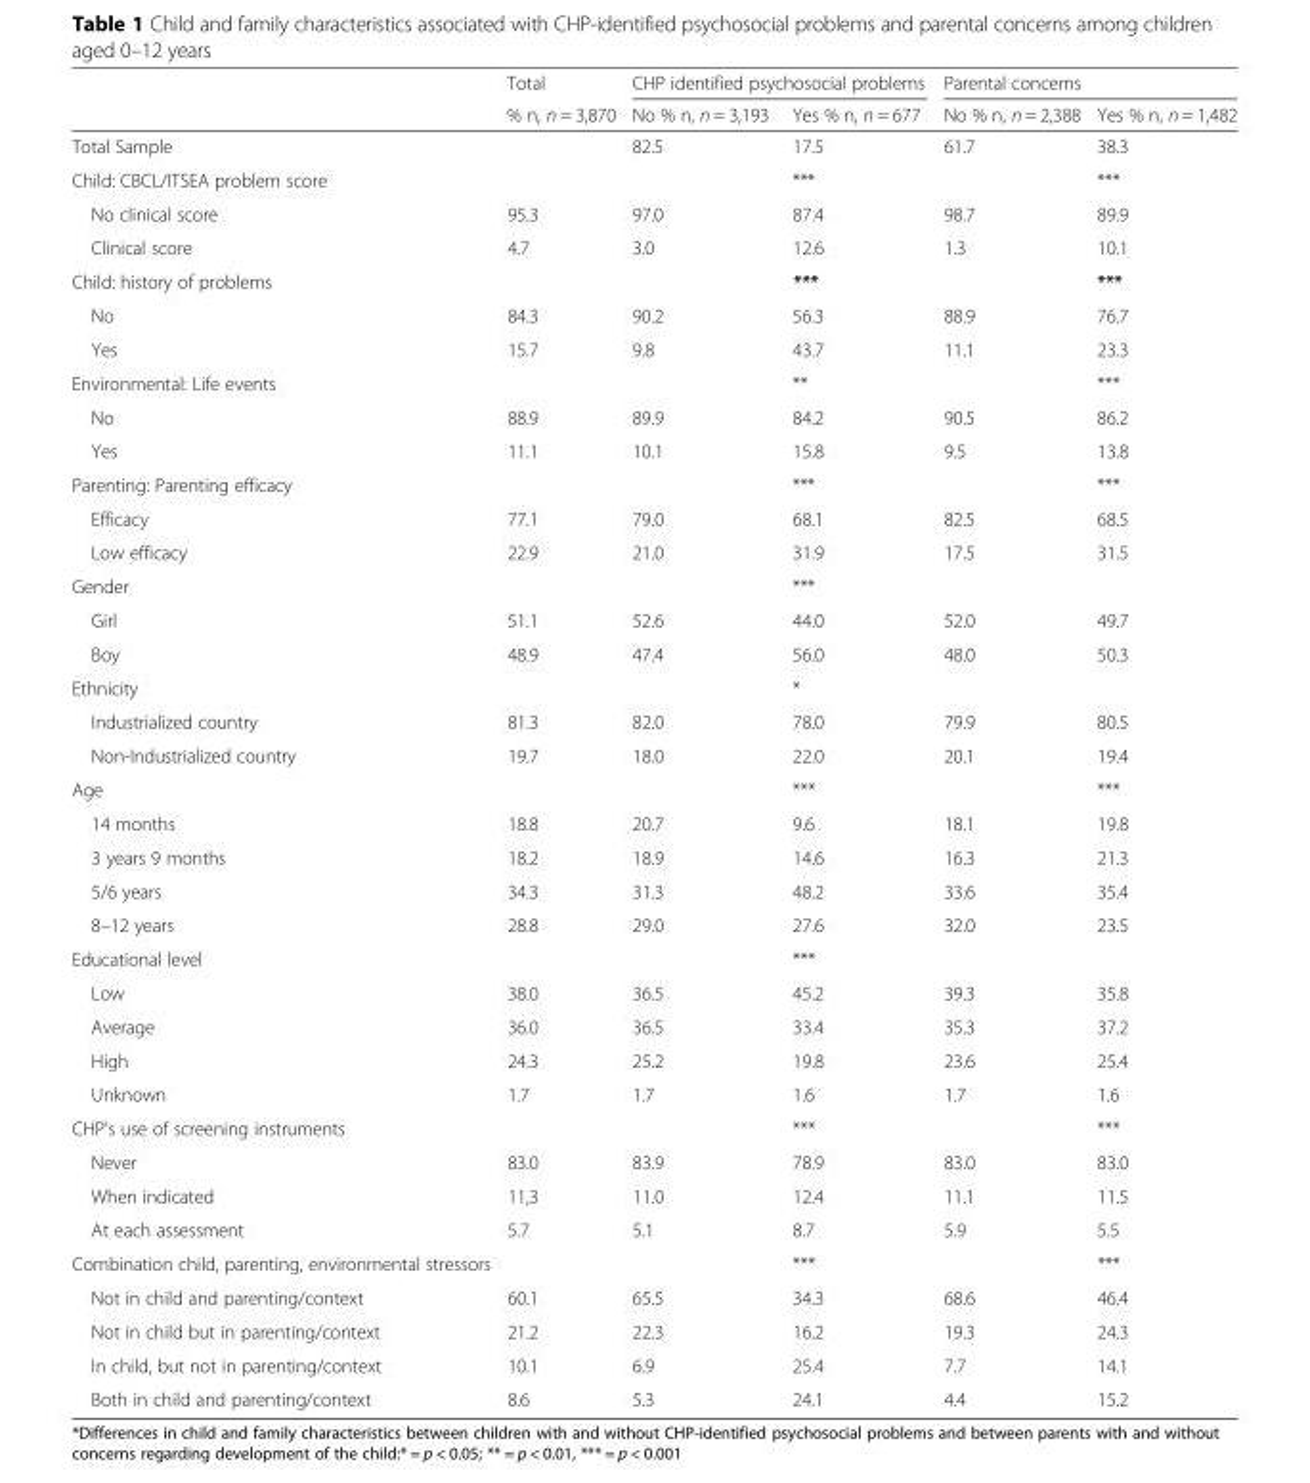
<table><thead><tr><td rowspan="2"></td><td rowspan="2">Total % n, n = 3,870</td><td colspan="2">CHP identified psychosocial problems</td><td colspan="2">Parental concerns</td></tr><tr><td>No % n, n = 3,193</td><td>Yes % n, n = 677</td><td>No % n, n = 2,388</td><td>Yes % n, n = 1,482</td></tr></thead><tbody><tr><td>Total Sample</td><td></td><td>82.5</td><td>17.5</td><td>61.7</td><td>38.3</td></tr><tr><td>Child: CBCL/ITSEA problem score</td><td></td><td></td><td>***</td><td></td><td>***</td></tr><tr><td>No clinical score</td><td>95.3</td><td>97.0</td><td>87.4</td><td>98.7</td><td>89.9</td></tr><tr><td>Clinical score</td><td>4.7</td><td>3.0</td><td>12.6</td><td>1.3</td><td>10.1</td></tr><tr><td>Child: history of problems</td><td></td><td></td><td>***</td><td></td><td>***</td></tr><tr><td>No</td><td>84.3</td><td>90.2</td><td>56.3</td><td>88.9</td><td>76.7</td></tr><tr><td>Yes</td><td>15.7</td><td>9.8</td><td>43.7</td><td>11.1</td><td>23.3</td></tr><tr><td>Environmental: Life events</td><td></td><td></td><td>**</td><td></td><td>***</td></tr><tr><td>No</td><td>88.9</td><td>89.9</td><td>84.2</td><td>90.5</td><td>86.2</td></tr><tr><td>Yes</td><td>11.1</td><td>10.1</td><td>15.8</td><td>9.5</td><td>13.8</td></tr><tr><td>Parenting: Parenting efficacy</td><td></td><td></td><td>***</td><td></td><td>***</td></tr><tr><td>Efficacy</td><td>77.1</td><td>79.0</td><td>68.1</td><td>82.5</td><td>68.5</td></tr><tr><td>Low efficacy</td><td>22.9</td><td>21.0</td><td>31.9</td><td>17.5</td><td>31.5</td></tr><tr><td>Gender</td><td></td><td></td><td>***</td><td></td><td></td></tr><tr><td>Girl</td><td>51.1</td><td>52.6</td><td>44.0</td><td>52.0</td><td>49.7</td></tr><tr><td>Boy</td><td>48.9</td><td>47.4</td><td>56.0</td><td>48.0</td><td>50.3</td></tr><tr><td>Ethnicity</td><td></td><td></td><td>*</td><td></td><td></td></tr><tr><td>Industrialized country</td><td>81.3</td><td>82.0</td><td>78.0</td><td>79.9</td><td>80.5</td></tr><tr><td>Non-Industrialized country</td><td>19.7</td><td>18.0</td><td>22.0</td><td>20.1</td><td>19.4</td></tr><tr><td>Age</td><td></td><td></td><td>***</td><td></td><td>***</td></tr><tr><td>14 months</td><td>18.8</td><td>20.7</td><td>9.6</td><td>18.1</td><td>19.8</td></tr><tr><td>3 years 9 months</td><td>18.2</td><td>18.9</td><td>14.6</td><td>16.3</td><td>21.3</td></tr><tr><td>5/6 years</td><td>34.3</td><td>31.3</td><td>48.2</td><td>33.6</td><td>35.4</td></tr><tr><td>8–12 years</td><td>28.8</td><td>29.0</td><td>27.6</td><td>32.0</td><td>23.5</td></tr><tr><td>Educational level</td><td></td><td></td><td>***</td><td></td><td></td></tr><tr><td>Low</td><td>38.0</td><td>36.5</td><td>45.2</td><td>39.3</td><td>35.8</td></tr><tr><td>Average</td><td>36.0</td><td>36.5</td><td>33.4</td><td>35.3</td><td>37.2</td></tr><tr><td>High</td><td>24.3</td><td>25.2</td><td>19.8</td><td>23.6</td><td>25.4</td></tr><tr><td>Unknown</td><td>1.7</td><td>1.7</td><td>1.6</td><td>1.7</td><td>1.6</td></tr><tr><td>CHP’s use of screening instruments</td><td></td><td></td><td>***</td><td></td><td>***</td></tr><tr><td>Never</td><td>83.0</td><td>83.9</td><td>78.9</td><td>83.0</td><td>83.0</td></tr><tr><td>When indicated</td><td>11,3</td><td>11.0</td><td>12.4</td><td>11.1</td><td>11.5</td></tr><tr><td>At each assessment</td><td>5.7</td><td>5.1</td><td>8.7</td><td>5.9</td><td>5.5</td></tr><tr><td>Combination child, parenting, environmental stressors</td><td></td><td></td><td>***</td><td></td><td>***</td></tr><tr><td>Not in child and parenting/context</td><td>60.1</td><td>65.5</td><td>34.3</td><td>68.6</td><td>46.4</td></tr><tr><td>Not in child but in parenting/context</td><td>21.2</td><td>22.3</td><td>16.2</td><td>19.3</td><td>24.3</td></tr><tr><td>In child, but not in parenting/context</td><td>10.1</td><td>6.9</td><td>25.4</td><td>7.7</td><td>14.1</td></tr><tr><td>Both in child and parenting/context</td><td>8.6</td><td>5.3</td><td>24.1</td><td>4.4</td><td>15.2</td></tr></tbody></table>